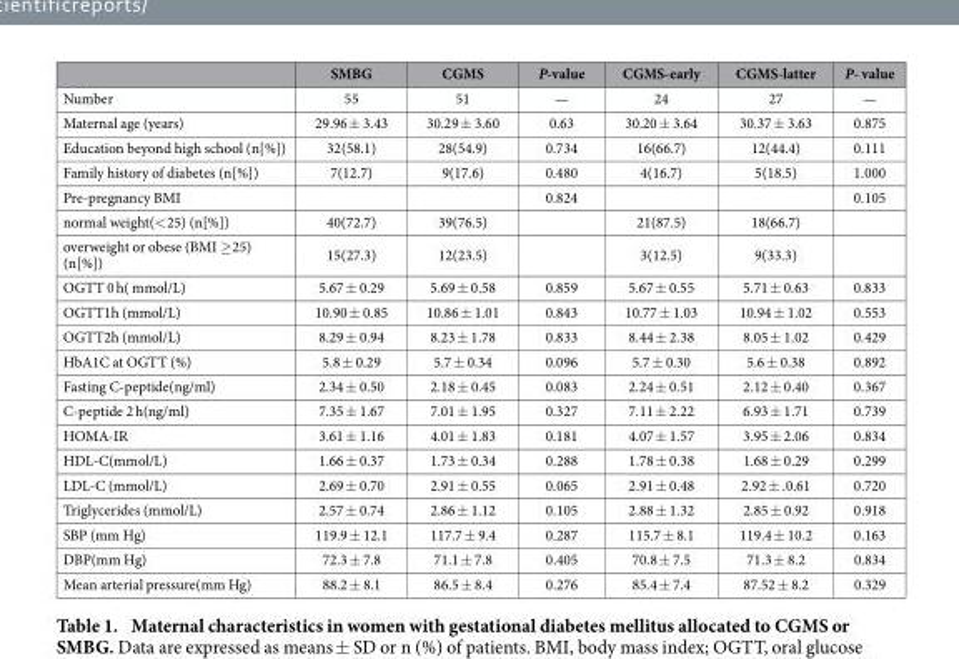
<table><thead><tr><td></td><td>SMBG</td><td>CGMS</td><td>P-value</td><td>CGMS-early</td><td>CGMS-latter</td><td>P- value</td></tr></thead><tbody><tr><td>Number</td><td>55</td><td>51</td><td>—</td><td>24</td><td>27</td><td>—</td></tr><tr><td>Maternal age (years)</td><td>29.96 ± 3.43</td><td>30.29 ± 3.60</td><td>0.63</td><td>30.20 ± 3.64</td><td>30.37 ± 3.63</td><td>0.875</td></tr><tr><td>Education beyond high school (n[%])</td><td>32(58.1)</td><td>28(54.9)</td><td>0.734</td><td>16(66.7)</td><td>12(44.4)</td><td>0.111</td></tr><tr><td>Family history of diabetes (n[%])</td><td>7(12.7)</td><td>9(17.6)</td><td>0.480</td><td>4(16.7)</td><td>5(18.5)</td><td>1.000</td></tr><tr><td>Pre-pregnancy BMI</td><td></td><td></td><td>0.824</td><td></td><td></td><td>0.105</td></tr><tr><td>normal weight(&lt; 25) (n[%])</td><td>40(72.7)</td><td>39(76.5)</td><td></td><td>21(87.5)</td><td>18(66.7)</td><td></td></tr><tr><td>overweight or obese (BMI ≥ 25) (n[%])</td><td>15(27.3)</td><td>12(23.5)</td><td></td><td>3(12.5)</td><td>9(33.3)</td><td></td></tr><tr><td>OGTT 0 h( mmol/L)</td><td>5.67 ± 0.29</td><td>5.69 ± 0.58</td><td>0.859</td><td>5.67 ± 0.55</td><td>5.71 ± 0.63</td><td>0.833</td></tr><tr><td>OGTT1h (mmol/L)</td><td>10.90 ± 0.85</td><td>10.86 ± 1.01</td><td>0.843</td><td>10.77 ± 1.03</td><td>10.94 ± 1.02</td><td>0.553</td></tr><tr><td>OGTT2h (mmol/L)</td><td>8.29 ± 0.94</td><td>8.23 ± 1.78</td><td>0.833</td><td>8.44 ± 2.38</td><td>8.05 ± 1.02</td><td>0.429</td></tr><tr><td>HbA1C at OGTT (%)</td><td>5.8 ± 0.29</td><td>5.7 ± 0.34</td><td>0.096</td><td>5.7 ± 0.30</td><td>5.6 ± 0.38</td><td>0.892</td></tr><tr><td>Fasting C-peptide(ng/ml)</td><td>2.34 ± 0.50</td><td>2.18 ± 0.45</td><td>0.083</td><td>2.24 ± 0.51</td><td>2.12 ± 0.40</td><td>0.367</td></tr><tr><td>C-peptide 2 h(ng/ml)</td><td>7.35 ± 1.67</td><td>7.01 ± 1.95</td><td>0.327</td><td>7.11 ± 2.22</td><td>6.93 ± 1.71</td><td>0.739</td></tr><tr><td>HOMA-IR</td><td>3.61 ± 1.16</td><td>4.01 ± 1.83</td><td>0.181</td><td>4.07 ± 1.57</td><td>3.95 ± 2.06</td><td>0.834</td></tr><tr><td>HDL-C(mmol/L)</td><td>1.66 ± 0.37</td><td>1.73 ± 0.34</td><td>0.288</td><td>1.78 ± 0.38</td><td>1.68 ± 0.29</td><td>0.299</td></tr><tr><td>LDL-C (mmol/L)</td><td>2.69 ± 0.70</td><td>2.91 ± 0.55</td><td>0.065</td><td>2.91 ± 0.48</td><td>2.92 ± .0.61</td><td>0.720</td></tr><tr><td>Triglycerides (mmol/L)</td><td>2.57 ± 0.74</td><td>2.86 ± 1.12</td><td>0.105</td><td>2.88 ± 1.32</td><td>2.85 ± 0.92</td><td>0.918</td></tr><tr><td>SBP (mm Hg)</td><td>119.9 ± 12.1</td><td>117.7 ± 9.4</td><td>0.287</td><td>115.7 ± 8.1</td><td>119.4 ± 10.2</td><td>0.163</td></tr><tr><td>DBP(mm Hg)</td><td>72.3 ± 7.8</td><td>71.1 ± 7.8</td><td>0.405</td><td>70.8 ± 7.5</td><td>71.3 ± 8.2</td><td>0.834</td></tr><tr><td>Mean arterial pressure(mm Hg)</td><td>88.2 ± 8.1</td><td>86.5 ± 8.4</td><td>0.276</td><td>85.4 ± 7.4</td><td>87.52 ± 8.2</td><td>0.329</td></tr></tbody></table>